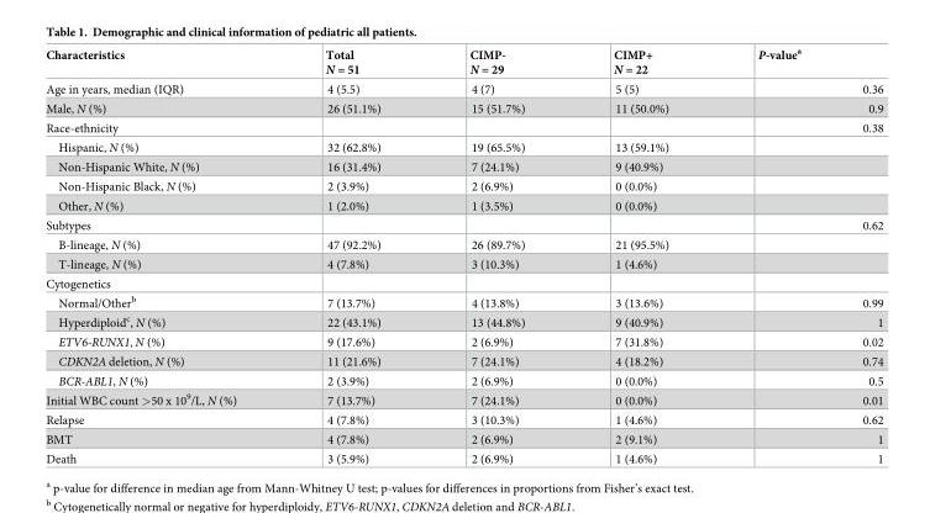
<table><thead><tr><td>Characteristics</td><td>Total N = 51</td><td>CIMP- N = 29</td><td>CIMP+ N = 22</td><td>P-value<sup>a</sup></td></tr></thead><tbody><tr><td>Age in years, median (IQR)</td><td>4 (5.5)</td><td>4 (7)</td><td>5 (5)</td><td>0.36</td></tr><tr><td>Male, N (%)</td><td>26 (51.1%)</td><td>15 (51.7%)</td><td>11 (50.0%)</td><td>0.9</td></tr><tr><td>Race-ethnicity</td><td></td><td></td><td></td><td>0.38</td></tr><tr><td>Hispanic, N (%)</td><td>32 (62.8%)</td><td>19 (65.5%)</td><td>13 (59.1%)</td><td></td></tr><tr><td>Non-Hispanic White, N (%)</td><td>16 (31.4%)</td><td>7 (24.1%)</td><td>9 (40.9%)</td><td></td></tr><tr><td>Non-Hispanic Black, N (%)</td><td>2 (3.9%)</td><td>2 (6.9%)</td><td>0 (0.0%)</td><td></td></tr><tr><td>Other, N (%)</td><td>1 (2.0%)</td><td>1 (3.5%)</td><td>0 (0.0%)</td><td></td></tr><tr><td>Subtypes</td><td></td><td></td><td></td><td>0.62</td></tr><tr><td>B-lineage, N (%)</td><td>47 (92.2%)</td><td>26 (89.7%)</td><td>21 (95.5%)</td><td></td></tr><tr><td>T-lineage, N (%)</td><td>4 (7.8%)</td><td>3 (10.3%)</td><td>1 (4.6%)</td><td></td></tr><tr><td colspan="5">Cytogenetics</td></tr><tr><td>Normal/Other<sup>b</sup></td><td>7 (13.7%)</td><td>4 (13.8%)</td><td>3 (13.6%)</td><td>0.99</td></tr><tr><td>Hyperdiploid<sup>c</sup>, N (%)</td><td>22 (43.1%)</td><td>13 (44.8%)</td><td>9 (40.9%)</td><td>1</td></tr><tr><td>ETV6-RUNX1, N (%)</td><td>9 (17.6%)</td><td>2 (6.9%)</td><td>7 (31.8%)</td><td>0.02</td></tr><tr><td>CDKN2A deletion, N (%)</td><td>11 (21.6%)</td><td>7 (24.1%)</td><td>4 (18.2%)</td><td>0.74</td></tr><tr><td>BCR-ABL1, N (%)</td><td>2 (3.9%)</td><td>2 (6.9%)</td><td>0 (0.0%)</td><td>0.5</td></tr><tr><td>Initial WBC count &gt;50 x 10<sup>9</sup>/L, N (%)</td><td>7 (13.7%)</td><td>7 (24.1%)</td><td>0 (0.0%)</td><td>0.01</td></tr><tr><td>Relapse</td><td>4 (7.8%)</td><td>3 (10.3%)</td><td>1 (4.6%)</td><td>0.62</td></tr><tr><td>BMT</td><td>4 (7.8%)</td><td>2 (6.9%)</td><td>2 (9.1%)</td><td>1</td></tr><tr><td>Death</td><td>3 (5.9%)</td><td>2 (6.9%)</td><td>1 (4.6%)</td><td>1</td></tr></tbody></table>